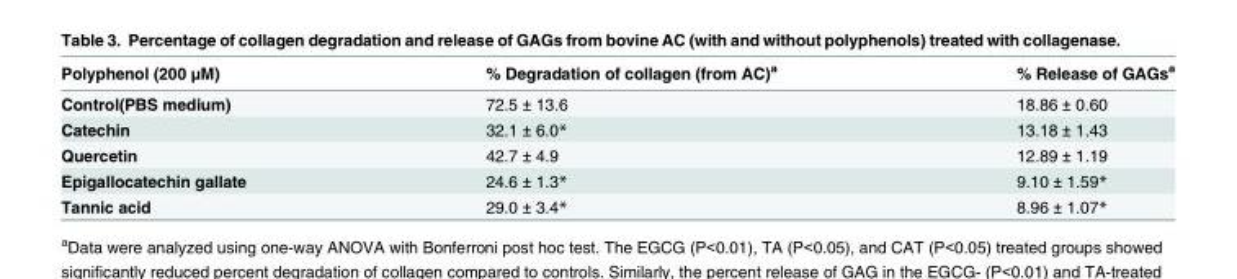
<table><thead><tr><td>Polyphenol (200 μM)</td><td>% Degradation of collagen (from AC)<sup>a</sup></td><td>% Release of GAGs<sup>a</sup></td></tr></thead><tbody><tr><td>Control(PBS medium)</td><td>72.5 ± 13.6</td><td>18.86 ± 0.60</td></tr><tr><td>Catechin</td><td>32.1 ± 6.0*</td><td>13.18 ± 1.43</td></tr><tr><td>Quercetin</td><td>42.7 ± 4.9</td><td>12.89 ± 1.19</td></tr><tr><td>Epigallocatechin gallate</td><td>24.6 ± 1.3*</td><td>9.10 ± 1.59*</td></tr><tr><td>Tannic acid</td><td>29.0 ± 3.4*</td><td>8.96 ± 1.07*</td></tr></tbody></table>